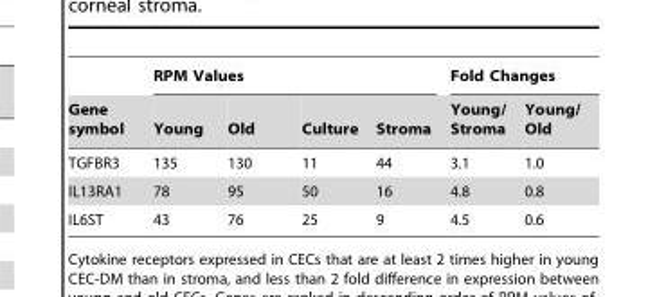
<table><thead><tr><td rowspan="2">Gene symbol</td><td colspan="4">RPM Values</td><td colspan="2">Fold Changes</td></tr><tr><td>Young</td><td>Old</td><td>Culture</td><td>Stroma</td><td>Young/ Stroma</td><td>Young/ Old</td></tr></thead><tbody><tr><td>TGFBR3</td><td>135</td><td>130</td><td>11</td><td>44</td><td>3.1</td><td>1.0</td></tr><tr><td>IL13RA1</td><td>78</td><td>95</td><td>50</td><td>16</td><td>4.8</td><td>0.8</td></tr><tr><td>IL6ST</td><td>43</td><td>76</td><td>25</td><td>9</td><td>4.5</td><td>0.6</td></tr></tbody></table>